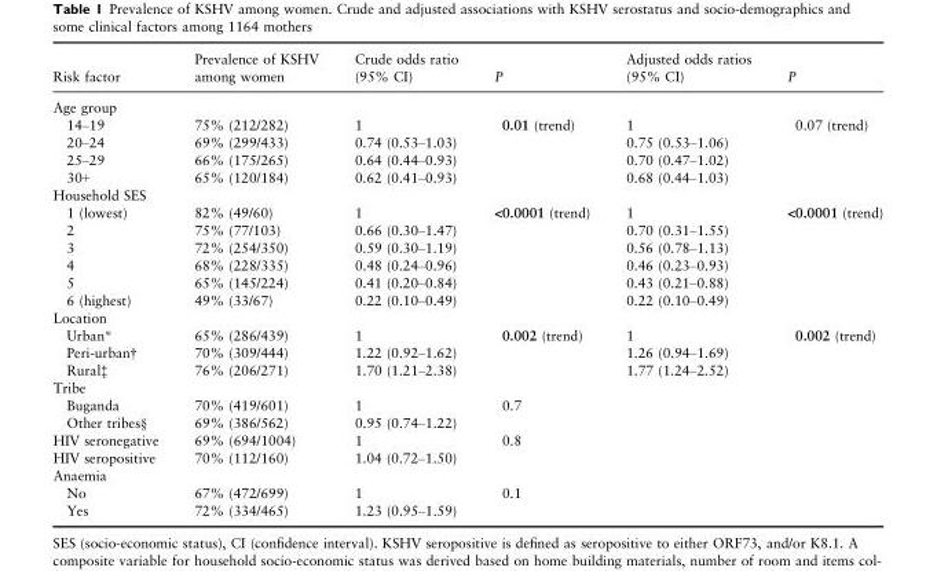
<table><thead><tr><td>Risk factor</td><td>Prevalence of KSHV among women</td><td>Crude odds ratio (95% CI)</td><td>P</td><td>Adjusted odds ratios (95% CI)</td><td>P</td></tr></thead><tbody><tr><td colspan="6">Age group</td></tr><tr><td>14–19</td><td>75% (212/282)</td><td>1</td><td rowspan="4">0.01 (trend)</td><td>1</td><td rowspan="4">0.07 (trend)</td></tr><tr><td>20–24</td><td>69% (299/433)</td><td>0.74 (0.53–1.03)</td><td>0.75 (0.53–1.06)</td></tr><tr><td>25–29</td><td>66% (175/265)</td><td>0.64 (0.44–0.93)</td><td>0.70 (0.47–1.02)</td></tr><tr><td>30+</td><td>65% (120/184)</td><td>0.62 (0.41–0.93)</td><td>0.68 (0.44–1.03)</td></tr><tr><td colspan="6">Household SES</td></tr><tr><td>1 (lowest)</td><td>82% (49/60)</td><td>1</td><td rowspan="6">&lt;0.0001 (trend)</td><td>1</td><td rowspan="6">&lt;0.0001 (trend)</td></tr><tr><td>2</td><td>75% (77/103)</td><td>0.66 (0.30–1.47)</td><td>0.70 (0.31–1.55)</td></tr><tr><td>3</td><td>72% (254/350)</td><td>0.59 (0.30–1.19)</td><td>0.56 (0.78–1.13)</td></tr><tr><td>4</td><td>68% (228/335)</td><td>0.48 (0.24–0.96)</td><td>0.46 (0.23–0.93)</td></tr><tr><td>5</td><td>65% (145/224)</td><td>0.41 (0.20–0.84)</td><td>0.43 (0.21–0.88)</td></tr><tr><td>6 (highest)</td><td>49% (33/67)</td><td>0.22 (0.10–0.49)</td><td>0.22 (0.10–0.49)</td></tr><tr><td colspan="6">Location</td></tr><tr><td>Urban*</td><td>65% (286/439)</td><td>1</td><td rowspan="3">0.002 (trend)</td><td>1</td><td rowspan="3">0.002 (trend)</td></tr><tr><td>Peri-urban†</td><td>70% (309/444)</td><td>1.22 (0.92–1.62)</td><td>1.26 (0.94–1.69)</td></tr><tr><td>Rural‡</td><td>76% (206/271)</td><td>1.70 (1.21–2.38)</td><td>1.77 (1.24–2.52)</td></tr><tr><td colspan="6">Tribe</td></tr><tr><td>Buganda</td><td>70% (419/601)</td><td>1</td><td rowspan="2">0.7</td><td></td><td></td></tr><tr><td>Other tribes§</td><td>69% (386/562)</td><td>0.95 (0.74–1.22)</td><td></td><td></td></tr><tr><td>HIV seronegative</td><td>69% (694/1004)</td><td>1</td><td rowspan="2">0.8</td><td></td><td></td></tr><tr><td>HIV seropositive</td><td>70% (112/160)</td><td>1.04 (0.72–1.50)</td><td></td><td></td></tr><tr><td colspan="6">Anaemia</td></tr><tr><td>No</td><td>67% (472/699)</td><td>1</td><td rowspan="2">0.1</td><td></td><td></td></tr><tr><td>Yes</td><td>72% (334/465)</td><td>1.23 (0.95–1.59)</td><td></td><td></td></tr></tbody></table>